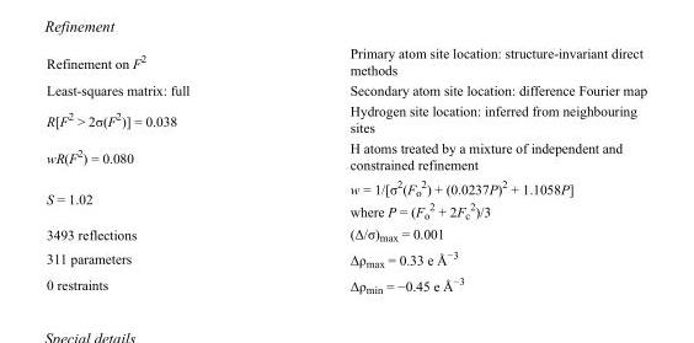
<table><tbody><tr><td>Refinement on F<sup>2</sup></td><td>Primary atom site location: structure-invariant direct methods</td></tr><tr><td>Least-squares matrix: full</td><td>Secondary atom site location: difference Fourier map</td></tr><tr><td>R[F<sup>2</sup> &gt; 2σ(F<sup>2</sup>)] = 0.038</td><td>Hydrogen site location: inferred from neighbouring sites</td></tr><tr><td>wR(F<sup>2</sup>) = 0.080</td><td>H atoms treated by a mixture of independent and constrained refinement</td></tr><tr><td>S = 1.02</td><td>w = 1/[σ<sup>2</sup>(F<sub>o</sub> <sup>2</sup>) + (0.0237P)<sup>2</sup> + 1.1058P] where P = (F<sub>o</sub> <sup>2</sup> + 2F<sub>c</sub> <sup>2</sup>)/3</td></tr><tr><td>3493 reflections</td><td>(Δ/σ)<sub>max</sub> = 0.001</td></tr><tr><td>311 parameters</td><td>Δρ<sub>max</sub> = 0.33 e Å<sup>−3</sup></td></tr><tr><td>0 restraints</td><td>Δρ<sub>min</sub> = −0.45 e Å<sup>−3</sup></td></tr></tbody></table>